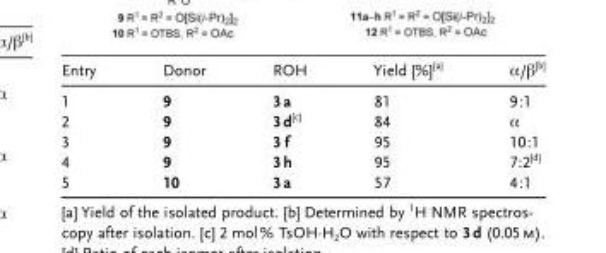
<table><thead><tr><td>Entry</td><td>Donor</td><td>ROH</td><td>Yield [%][a]</td><td>α/β[b]</td></tr></thead><tbody><tr><td>1</td><td>9</td><td>3a</td><td>81</td><td>9:1</td></tr><tr><td>2</td><td>9</td><td>3d[c]</td><td>84</td><td>α</td></tr><tr><td>3</td><td>9</td><td>3 f</td><td>95</td><td>10:1</td></tr><tr><td>4</td><td>9</td><td>3h</td><td>95</td><td>7:2[d]</td></tr><tr><td>5</td><td>10</td><td>3a</td><td>57</td><td>4:1</td></tr></tbody></table>